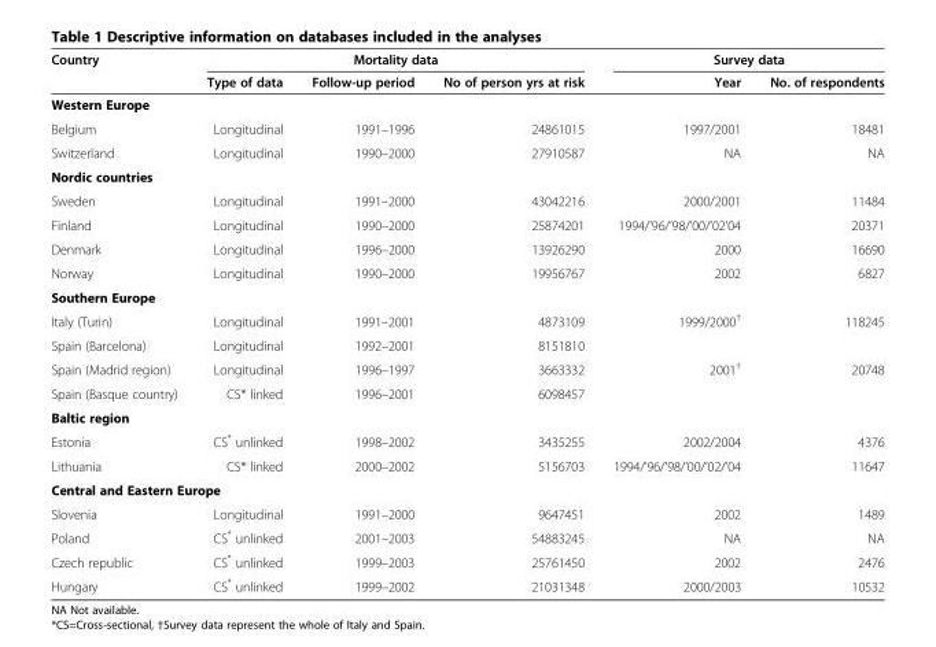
<table><thead><tr><td rowspan="2">Country</td><td colspan="3">Mortality data</td><td colspan="2">Survey data</td></tr><tr><td>Type of data</td><td>Follow-up period</td><td>No of person yrs at risk</td><td>Year</td><td>No. of respondents</td></tr></thead><tbody><tr><td colspan="6">Western Europe</td></tr><tr><td>Belgium</td><td>Longitudinal</td><td>1991–1996</td><td>24861015</td><td>1997/2001</td><td>18481</td></tr><tr><td>Switzerland</td><td>Longitudinal</td><td>1990–2000</td><td>27910587</td><td>NA</td><td>NA</td></tr><tr><td colspan="6">Nordic countries</td></tr><tr><td>Sweden</td><td>Longitudinal</td><td>1991–2000</td><td>43042216</td><td>2000/2001</td><td>11484</td></tr><tr><td>Finland</td><td>Longitudinal</td><td>1990–2000</td><td>25874201</td><td>1994/’96/’98/’00/’02’04</td><td>20371</td></tr><tr><td>Denmark</td><td>Longitudinal</td><td>1996–2000</td><td>13926290</td><td>2000</td><td>16690</td></tr><tr><td>Norway</td><td>Longitudinal</td><td>1990–2000</td><td>19956767</td><td>2002</td><td>6827</td></tr><tr><td colspan="6">Southern Europe</td></tr><tr><td>Italy (Turin)</td><td>Longitudinal</td><td>1991–2001</td><td>4873109</td><td>1999/2000<sup>†</sup></td><td>118245</td></tr><tr><td>Spain (Barcelona)</td><td>Longitudinal</td><td>1992–2001</td><td>8151810</td><td></td><td></td></tr><tr><td>Spain (Madrid region)</td><td>Longitudinal</td><td>1996–1997</td><td>3663332</td><td>2001<sup>†</sup></td><td>20748</td></tr><tr><td>Spain (Basque country)</td><td>CS* linked</td><td>1996–2001</td><td>6098457</td><td></td><td></td></tr><tr><td colspan="6">Baltic region</td></tr><tr><td>Estonia</td><td>CS* unlinked</td><td>1998–2002</td><td>3435255</td><td>2002/2004</td><td>4376</td></tr><tr><td>Lithuania</td><td>CS* linked</td><td>2000–2002</td><td>5156703</td><td>1994/’96/’98/’00/’02/’04</td><td>11647</td></tr><tr><td colspan="6">Central and Eastern Europe</td></tr><tr><td>Slovenia</td><td>Longitudinal</td><td>1991–2000</td><td>9647451</td><td>2002</td><td>1489</td></tr><tr><td>Poland</td><td>CS* unlinked</td><td>2001–2003</td><td>54883245</td><td>NA</td><td>NA</td></tr><tr><td>Czech republic</td><td>CS* unlinked</td><td>1999–2003</td><td>25761450</td><td>2002</td><td>2476</td></tr><tr><td>Hungary</td><td>CS* unlinked</td><td>1999–2002</td><td>21031348</td><td>2000/2003</td><td>10532</td></tr></tbody></table>